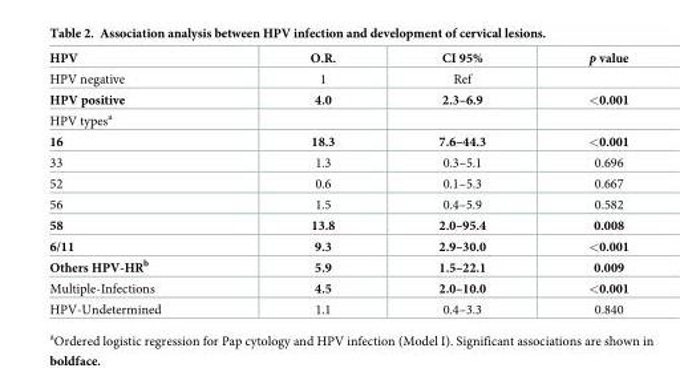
<table><thead><tr><td>HPV</td><td>O.R.</td><td>CI 95%</td><td>p value</td></tr></thead><tbody><tr><td>HPV negative</td><td>1</td><td>Ref</td><td></td></tr><tr><td>HPV positive</td><td>4.0</td><td>2.3–6.9</td><td>&lt;0.001</td></tr><tr><td colspan="4">HPV types<sup>a</sup></td></tr><tr><td>16</td><td>18.3</td><td>7.6–44.3</td><td>&lt;0.001</td></tr><tr><td>33</td><td>1.3</td><td>0.3–5.1</td><td>0.696</td></tr><tr><td>52</td><td>0.6</td><td>0.1–5.3</td><td>0.667</td></tr><tr><td>56</td><td>1.5</td><td>0.4–5.9</td><td>0.582</td></tr><tr><td>58</td><td>13.8</td><td>2.0–95.4</td><td>0.008</td></tr><tr><td>6/11</td><td>9.3</td><td>2.9–30.0</td><td>&lt;0.001</td></tr><tr><td>Others HPV-HR<sup>b</sup></td><td>5.9</td><td>1.5–22.1</td><td>0.009</td></tr><tr><td>Multiple-Infections</td><td>4.5</td><td>2.0–10.0</td><td>&lt;0.001</td></tr><tr><td>HPV-Undetermined</td><td>1.1</td><td>0.4–3.3</td><td>0.840</td></tr></tbody></table>